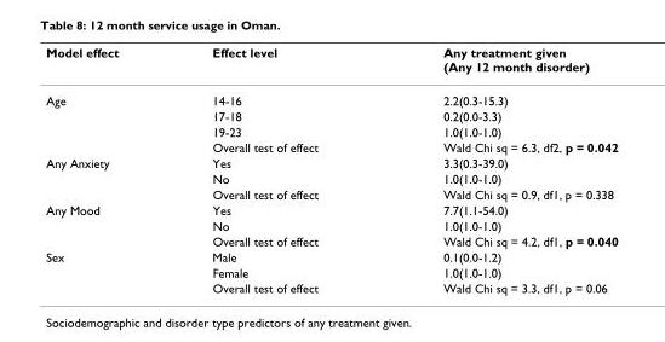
<table><thead><tr><td>Model effect</td><td>Effect level</td><td>Any treatment given (Any 12 month disorder)</td></tr></thead><tbody><tr><td rowspan="4">Age</td><td>14-16</td><td>2.2(0.3-15.3)</td></tr><tr><td>17-18</td><td>0.2(0.0-3.3)</td></tr><tr><td>19-23</td><td>1.0(1.0-1.0)</td></tr><tr><td>Overall test of effect</td><td>Wald Chi sq = 6.3, df2, p = 0.042</td></tr><tr><td rowspan="3">Any Anxiety</td><td>Yes</td><td>3.3(0.3-39.0)</td></tr><tr><td>No</td><td>1.0(1.0-1.0)</td></tr><tr><td>Overall test of effect</td><td>Wald Chi sq = 0.9, df1, p = 0.338</td></tr><tr><td rowspan="3">Any Mood</td><td>Yes</td><td>7.7(1.1-54.0)</td></tr><tr><td>No</td><td>1.0(1.0-1.0)</td></tr><tr><td>Overall test of effect</td><td>Wald Chi sq = 4.2, df1, p = 0.040</td></tr><tr><td rowspan="3">Sex</td><td>Male</td><td>0.1(0.0-1.2)</td></tr><tr><td>Female</td><td>1.0(1.0-1.0)</td></tr><tr><td>Overall test of effect</td><td>Wald Chi sq = 3.3, df1, p = 0.06</td></tr></tbody></table>